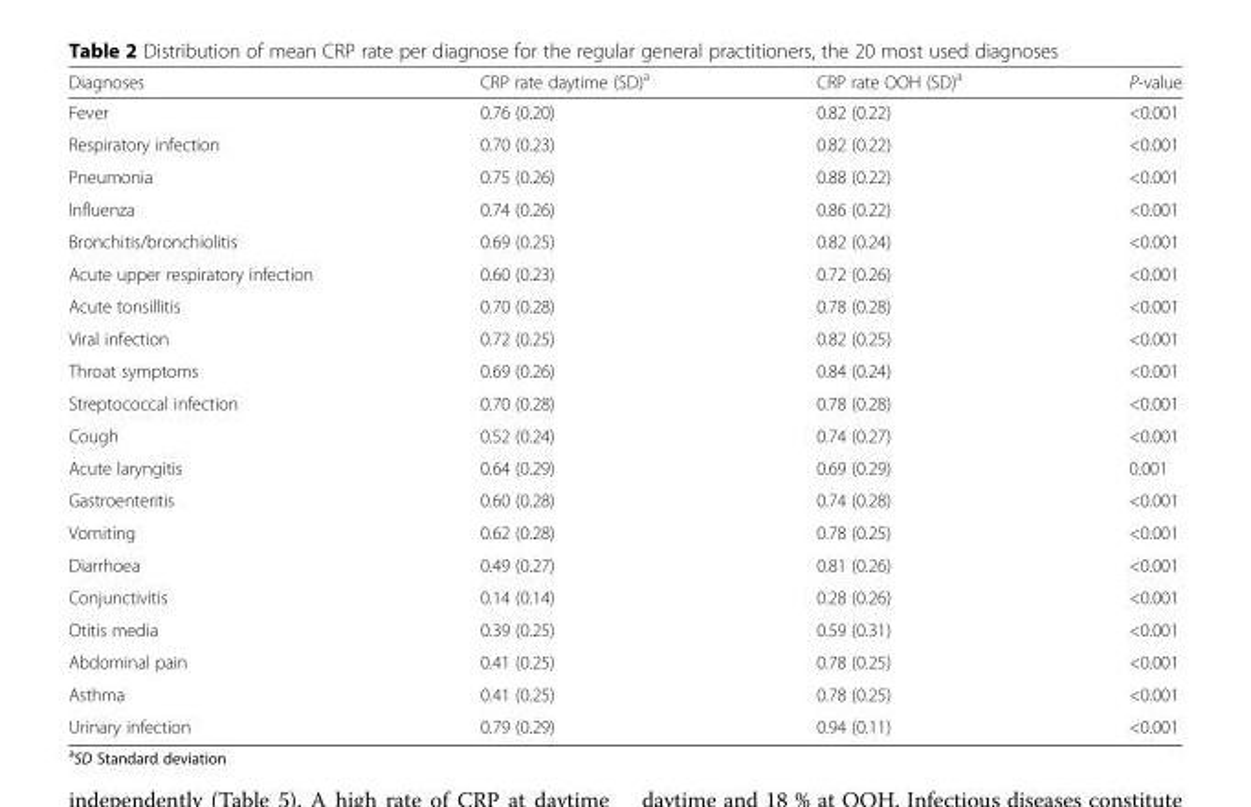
<table><thead><tr><td>Diagnoses</td><td>CRP rate daytime (SD)<sup>a</sup></td><td>CRP rate OOH (SD)<sup>a</sup></td><td>P-value</td></tr></thead><tbody><tr><td>Fever</td><td>0.76 (0.20)</td><td>0.82 (0.22)</td><td>&lt;0.001</td></tr><tr><td>Respiratory infection</td><td>0.70 (0.23)</td><td>0.82 (0.22)</td><td>&lt;0.001</td></tr><tr><td>Pneumonia</td><td>0.75 (0.26)</td><td>0.88 (0.22)</td><td>&lt;0.001</td></tr><tr><td>Influenza</td><td>0.74 (0.26)</td><td>0.86 (0.22)</td><td>&lt;0.001</td></tr><tr><td>Bronchitis/bronchiolitis</td><td>0.69 (0.25)</td><td>0.82 (0.24)</td><td>&lt;0.001</td></tr><tr><td>Acute upper respiratory infection</td><td>0.60 (0.23)</td><td>0.72 (0.26)</td><td>&lt;0.001</td></tr><tr><td>Acute tonsillitis</td><td>0.70 (0.28)</td><td>0.78 (0.28)</td><td>&lt;0.001</td></tr><tr><td>Viral infection</td><td>0.72 (0.25)</td><td>0.82 (0.25)</td><td>&lt;0.001</td></tr><tr><td>Throat symptoms</td><td>0.69 (0.26)</td><td>0.84 (0.24)</td><td>&lt;0.001</td></tr><tr><td>Streptococcal infection</td><td>0.70 (0.28)</td><td>0.78 (0.28)</td><td>&lt;0.001</td></tr><tr><td>Cough</td><td>0.52 (0.24)</td><td>0.74 (0.27)</td><td>&lt;0.001</td></tr><tr><td>Acute laryngitis</td><td>0.64 (0.29)</td><td>0.69 (0.29)</td><td>0.001</td></tr><tr><td>Gastroenteritis</td><td>0.60 (0.28)</td><td>0.74 (0.28)</td><td>&lt;0.001</td></tr><tr><td>Vomiting</td><td>0.62 (0.28)</td><td>0.78 (0.25)</td><td>&lt;0.001</td></tr><tr><td>Diarrhoea</td><td>0.49 (0.27)</td><td>0.81 (0.26)</td><td>&lt;0.001</td></tr><tr><td>Conjunctivitis</td><td>0.14 (0.14)</td><td>0.28 (0.26)</td><td>&lt;0.001</td></tr><tr><td>Otitis media</td><td>0.39 (0.25)</td><td>0.59 (0.31)</td><td>&lt;0.001</td></tr><tr><td>Abdominal pain</td><td>0.41 (0.25)</td><td>0.78 (0.25)</td><td>&lt;0.001</td></tr><tr><td>Asthma</td><td>0.41 (0.25)</td><td>0.78 (0.25)</td><td>&lt;0.001</td></tr><tr><td>Urinary infection</td><td>0.79 (0.29)</td><td>0.94 (0.11)</td><td>&lt;0.001</td></tr></tbody></table>